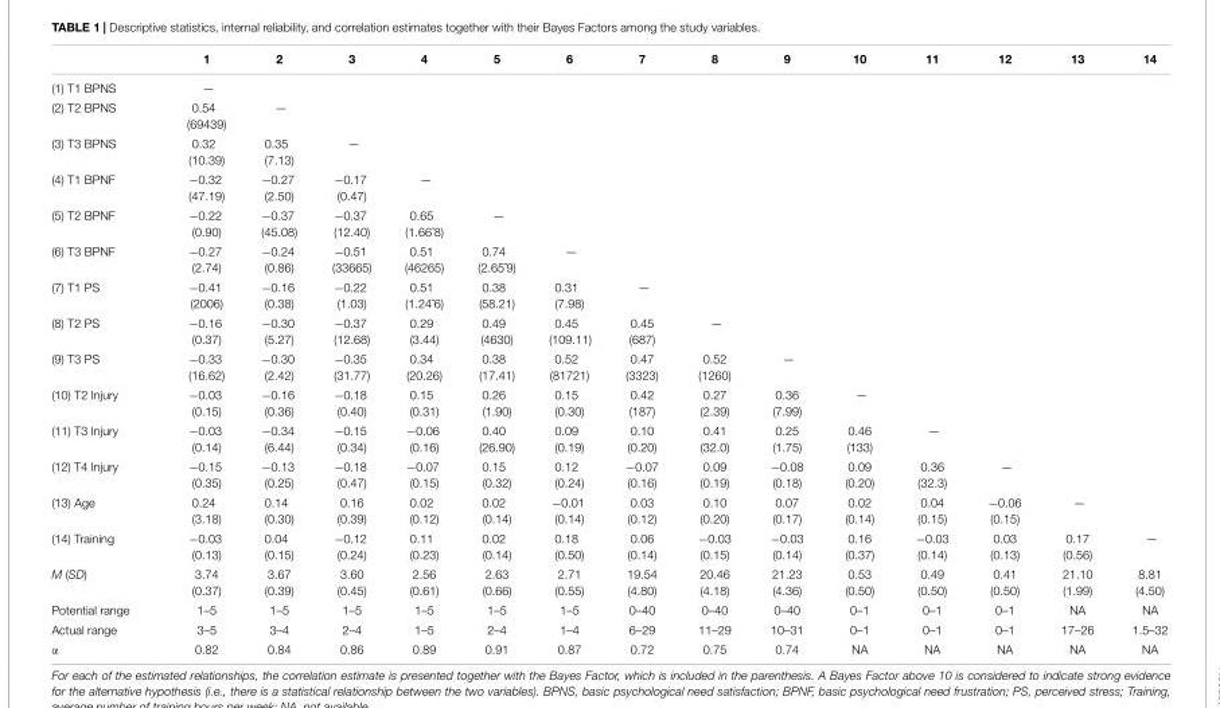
<table><thead><tr><td></td><td>1</td><td>2</td><td>3</td><td>4</td><td>5</td><td>6</td><td>7</td><td>8</td><td>9</td><td>10</td><td>11</td><td>12</td><td>13</td><td>14</td></tr></thead><tbody><tr><td>(1) T1 BPNS</td><td>—</td><td></td><td></td><td></td><td></td><td></td><td></td><td></td><td></td><td></td><td></td><td></td><td></td><td></td></tr><tr><td>(2) T2 BPNS</td><td>0.54 (69439)</td><td>—</td><td></td><td></td><td></td><td></td><td></td><td></td><td></td><td></td><td></td><td></td><td></td><td></td></tr><tr><td>(3) T3 BPNS</td><td>0.32 (10.39)</td><td>0.35 (7.13)</td><td>—</td><td></td><td></td><td></td><td></td><td></td><td></td><td></td><td></td><td></td><td></td><td></td></tr><tr><td>(4) T1 BPNF</td><td>−0.32 (47.19)</td><td>−0.27 (2.50)</td><td>−0.17 (0.47)</td><td>—</td><td></td><td></td><td></td><td></td><td></td><td></td><td></td><td></td><td></td><td></td></tr><tr><td>(5) T2 BPNF</td><td>−0.22 (0.90)</td><td>−0.37 (45.08)</td><td>−0.37 (12.40)</td><td>0.65 (1.66ˆ8)</td><td>—</td><td></td><td></td><td></td><td></td><td></td><td></td><td></td><td></td><td></td></tr><tr><td>(6) T3 BPNF</td><td>−0.27 (2.74)</td><td>−0.24 (0.86)</td><td>−0.51 (33665)</td><td>0.51 (46265)</td><td>0.74 (2.65ˆ9)</td><td>—</td><td></td><td></td><td></td><td></td><td></td><td></td><td></td><td></td></tr><tr><td>(7) T1 PS</td><td>−0.41 (2006)</td><td>−0.16 (0.38)</td><td>−0.22 (1.03)</td><td>0.51 (1.24ˆ6)</td><td>0.38 (58.21)</td><td>0.31 (7.98)</td><td>—</td><td></td><td></td><td></td><td></td><td></td><td></td><td></td></tr><tr><td>(8) T2 PS</td><td>−0.16 (0.37)</td><td>−0.30 (5.27)</td><td>−0.37 (12.68)</td><td>0.29 (3.44)</td><td>0.49 (4630)</td><td>0.45 (109.11)</td><td>0.45 (687)</td><td>—</td><td></td><td></td><td></td><td></td><td></td><td></td></tr><tr><td>(9) T3 PS</td><td>−0.33 (16.62)</td><td>−0.30 (2.42)</td><td>−0.35 (31.77)</td><td>0.34 (20.26)</td><td>0.38 (17.41)</td><td>0.52 (81721)</td><td>0.47 (3323)</td><td>0.52 (1260)</td><td>—</td><td></td><td></td><td></td><td></td><td></td></tr><tr><td>(10) T2 Injury</td><td>−0.03 (0.15)</td><td>−0.16 (0.36)</td><td>−0.18 (0.40)</td><td>0.15 (0.31)</td><td>0.26 (1.90)</td><td>0.15 (0.30)</td><td>0.42 (187)</td><td>0.27 (2.39)</td><td>0.36 (7.99)</td><td>—</td><td></td><td></td><td></td><td></td></tr><tr><td>(11) T3 Injury</td><td>−0.03 (0.14)</td><td>−0.34 (6.44)</td><td>−0.15 (0.34)</td><td>−0.06 (0.16)</td><td>0.40 (26.90)</td><td>0.09 (0.19)</td><td>0.10 (0.20)</td><td>0.41 (32.0)</td><td>0.25 (1.75)</td><td>0.46 (133)</td><td>—</td><td></td><td></td><td></td></tr><tr><td>(12) T4 Injury</td><td>−0.15 (0.35)</td><td>−0.13 (0.25)</td><td>−0.18 (0.47)</td><td>−0.07 (0.15)</td><td>0.15 (0.32)</td><td>0.12 (0.24)</td><td>−0.07 (0.16)</td><td>0.09 (0.19)</td><td>−0.08 (0.18)</td><td>0.09 (0.20)</td><td>0.36 (32.3)</td><td>—</td><td></td><td></td></tr><tr><td>(13) Age</td><td>0.24 (3.18)</td><td>0.14 (0.30)</td><td>0.16 (0.39)</td><td>0.02 (0.12)</td><td>0.02 (0.14)</td><td>−0.01 (0.14)</td><td>0.03 (0.12)</td><td>0.10 (0.20)</td><td>0.07 (0.17)</td><td>0.02 (0.14)</td><td>0.04 (0.15)</td><td>−0.06 (0.15)</td><td>—</td><td></td></tr><tr><td>(14) Training</td><td>−0.03 (0.13)</td><td>0.04 (0.15)</td><td>−0.12 (0.24)</td><td>0.11 (0.23)</td><td>0.02 (0.14)</td><td>0.18 (0.50)</td><td>0.06 (0.14)</td><td>−0.03 (0.15)</td><td>−0.03 (0.14)</td><td>0.16 (0.37)</td><td>−0.03 (0.14)</td><td>0.03 (0.13)</td><td>0.17 (0.56)</td><td>—</td></tr><tr><td>M (SD)</td><td>3.74 (0.37)</td><td>3.67 (0.39)</td><td>3.60 (0.45)</td><td>2.56 (0.61)</td><td>2.63 (0.66)</td><td>2.71 (0.55)</td><td>19.54 (4.80)</td><td>20.46 (4.18)</td><td>21.23 (4.36)</td><td>0.53 (0.50)</td><td>0.49 (0.50)</td><td>0.41 (0.50)</td><td>21.10 (1.99)</td><td>8.81 (4.50)</td></tr><tr><td>Potential range</td><td>1–5</td><td>1–5</td><td>1–5</td><td>1–5</td><td>1–5</td><td>1–5</td><td>0–40</td><td>0–40</td><td>0–40</td><td>0–1</td><td>0–1</td><td>0–1</td><td>NA</td><td>NA</td></tr><tr><td>Actual range</td><td>3–5</td><td>3–4</td><td>2–4</td><td>1–5</td><td>2–4</td><td>1–4</td><td>6–29</td><td>11–29</td><td>10–31</td><td>0–1</td><td>0–1</td><td>0–1</td><td>17–26</td><td>1.5–32</td></tr><tr><td>α</td><td>0.82</td><td>0.84</td><td>0.86</td><td>0.89</td><td>0.91</td><td>0.87</td><td>0.72</td><td>0.75</td><td>0.74</td><td>NA</td><td>NA</td><td>NA</td><td>NA</td><td>NA</td></tr></tbody></table>